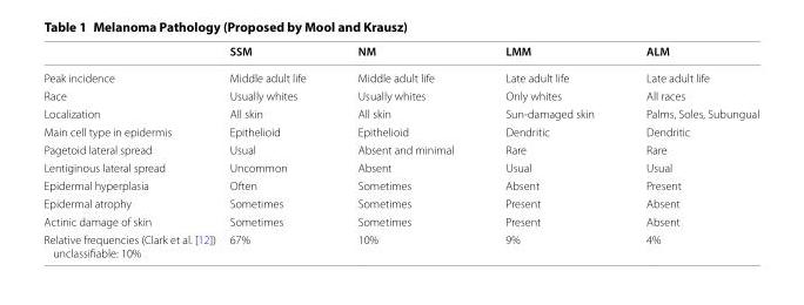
<table><thead><tr><td></td><td>SSM</td><td>NM</td><td>LMM</td><td>ALM</td></tr></thead><tbody><tr><td>Peak incidence</td><td>Middle adult life</td><td>Middle adult life</td><td>Late adult life</td><td>Late adult life</td></tr><tr><td>Race</td><td>Usually whites</td><td>Usually whites</td><td>Only whites</td><td>All races</td></tr><tr><td>Localization</td><td>All skin</td><td>All skin</td><td>Sun‑damaged skin</td><td>Palms, Soles, Subungual</td></tr><tr><td>Main cell type in epidermis</td><td>Epithelioid</td><td>Epithelioid</td><td>Dendritic</td><td>Dendritic</td></tr><tr><td>Pagetoid lateral spread</td><td>Usual</td><td>Absent and minimal</td><td>Rare</td><td>Rare</td></tr><tr><td>Lentiginous lateral spread</td><td>Uncommon</td><td>Absent</td><td>Usual</td><td>Usual</td></tr><tr><td>Epidermal hyperplasia</td><td>Often</td><td>Sometimes</td><td>Absent</td><td>Present</td></tr><tr><td>Epidermal atrophy</td><td>Sometimes</td><td>Sometimes</td><td>Present</td><td>Absent</td></tr><tr><td>Actinic damage of skin</td><td>Sometimes</td><td>Sometimes</td><td>Present</td><td>Absent</td></tr><tr><td>Relative frequencies (Clark et al. [12]) unclassifiable: 10%</td><td>67%</td><td>10%</td><td>9%</td><td>4%</td></tr></tbody></table>